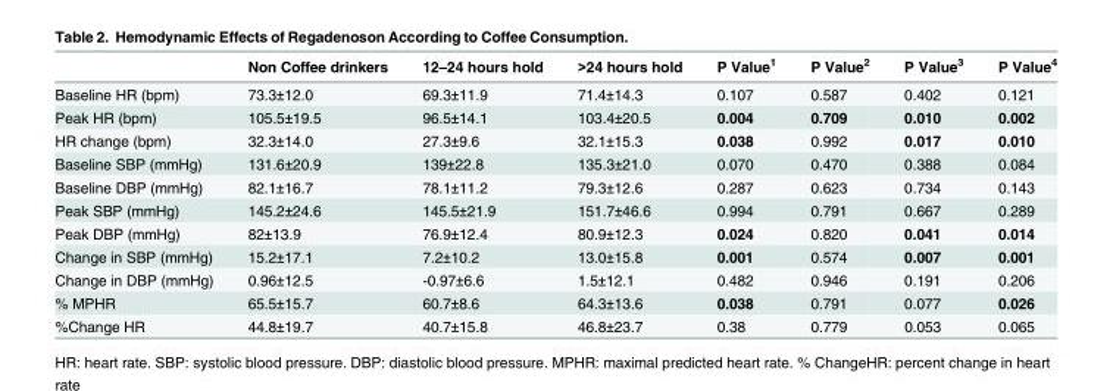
<table><thead><tr><td></td><td>Non Coffee drinkers</td><td>12–24 hours hold</td><td>&gt;24 hours hold</td><td>P Value<sup>1</sup></td><td>P Value<sup>2</sup></td><td>P Value<sup>3</sup></td><td>P Value<sup>4</sup></td></tr></thead><tbody><tr><td>Baseline HR (bpm)</td><td>73.3±12.0</td><td>69.3±11.9</td><td>71.4±14.3</td><td>0.107</td><td>0.587</td><td>0.402</td><td>0.121</td></tr><tr><td>Peak HR (bpm)</td><td>105.5±19.5</td><td>96.5±14.1</td><td>103.4±20.5</td><td>0.004</td><td>0.709</td><td>0.010</td><td>0.002</td></tr><tr><td>HR change (bpm)</td><td>32.3±14.0</td><td>27.3±9.6</td><td>32.1±15.3</td><td>0.038</td><td>0.992</td><td>0.017</td><td>0.010</td></tr><tr><td>Baseline SBP (mmHg)</td><td>131.6±20.9</td><td>139±22.8</td><td>135.3±21.0</td><td>0.070</td><td>0.470</td><td>0.388</td><td>0.084</td></tr><tr><td>Baseline DBP (mmHg)</td><td>82.1±16.7</td><td>78.1±11.2</td><td>79.3±12.6</td><td>0.287</td><td>0.623</td><td>0.734</td><td>0.143</td></tr><tr><td>Peak SBP (mmHg)</td><td>145.2±24.6</td><td>145.5±21.9</td><td>151.7±46.6</td><td>0.994</td><td>0.791</td><td>0.667</td><td>0.289</td></tr><tr><td>Peak DBP (mmHg)</td><td>82±13.9</td><td>76.9±12.4</td><td>80.9±12.3</td><td>0.024</td><td>0.820</td><td>0.041</td><td>0.014</td></tr><tr><td>Change in SBP (mmHg)</td><td>15.2±17.1</td><td>7.2±10.2</td><td>13.0±15.8</td><td>0.001</td><td>0.574</td><td>0.007</td><td>0.001</td></tr><tr><td>Change in DBP (mmHg)</td><td>0.96±12.5</td><td>-0.97±6.6</td><td>1.5±12.1</td><td>0.482</td><td>0.946</td><td>0.191</td><td>0.206</td></tr><tr><td>% MPHR</td><td>65.5±15.7</td><td>60.7±8.6</td><td>64.3±13.6</td><td>0.038</td><td>0.791</td><td>0.077</td><td>0.026</td></tr><tr><td>%Change HR</td><td>44.8±19.7</td><td>40.7±15.8</td><td>46.8±23.7</td><td>0.38</td><td>0.779</td><td>0.053</td><td>0.065</td></tr></tbody></table>